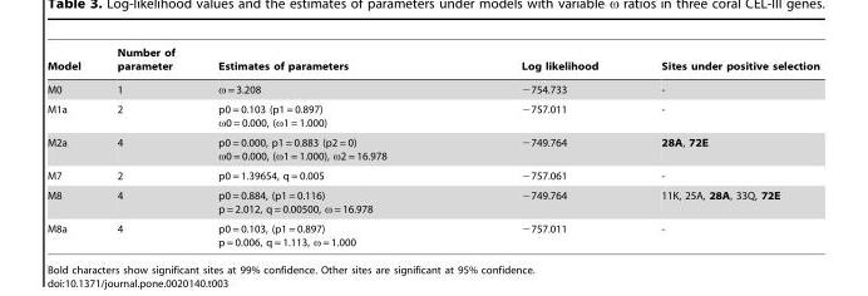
<table><thead><tr><td>Model</td><td>Number of parameter</td><td>Estimates of parameters</td><td>Log likelihood</td><td>Sites under positive selection</td></tr></thead><tbody><tr><td>M0</td><td>1</td><td>ω = 3.208</td><td>−754.733</td><td>-</td></tr><tr><td>M1a</td><td>2</td><td>p0 = 0.103 (p1 = 0.897) ω0 = 0.000, (ω1 = 1.000)</td><td>−757.011</td><td>-</td></tr><tr><td>M2a</td><td>4</td><td>p0 = 0.000, p1 = 0.883 (p2 = 0) ω0 = 0.000, (ω1 = 1.000), ω2 = 16.978</td><td>−749.764</td><td>28A, 72E</td></tr><tr><td>M7</td><td>2</td><td>p0 = 1.39654, q = 0.005</td><td>−757.061</td><td>-</td></tr><tr><td>M8</td><td>4</td><td>p0 = 0.884, (p1 = 0.116) p = 2.012, q = 0.00500, ω = 16.978</td><td>−749.764</td><td>11K, 25A, 28A, 33Q, 72E</td></tr><tr><td>M8a</td><td>4</td><td>p0 = 0.103, (p1 = 0.897) p = 0.006, q = 1.113, ω = 1.000</td><td>−757.011</td><td>-</td></tr></tbody></table>